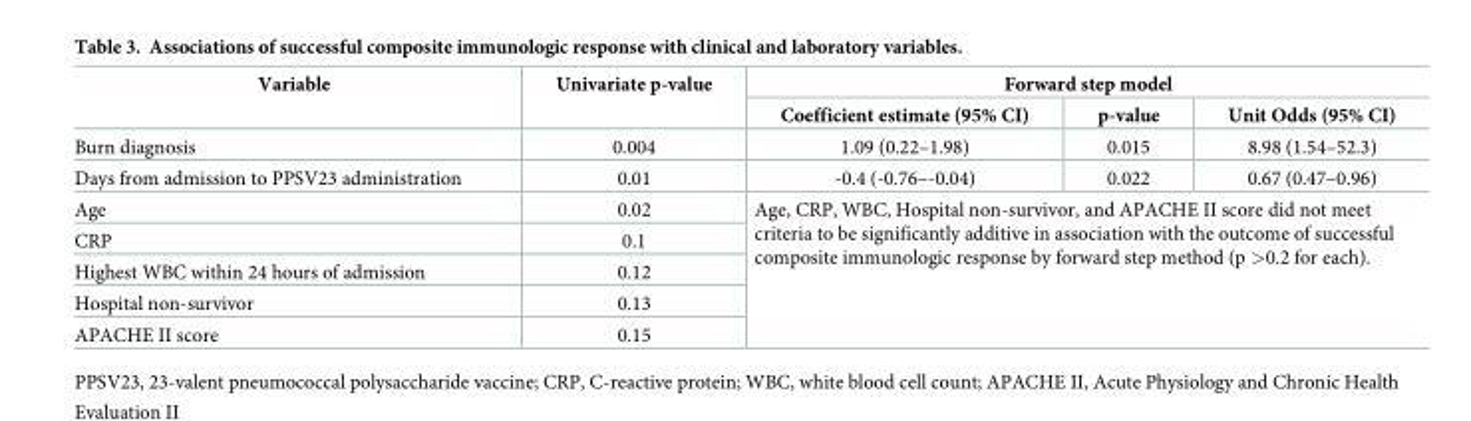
<table><thead><tr><td rowspan="2">Variable</td><td rowspan="2">Univariate p-value</td><td colspan="3">Forward step model</td></tr><tr><td>Coefficient estimate (95% CI)</td><td>p-value</td><td>Unit Odds (95% CI)</td></tr></thead><tbody><tr><td>Burn diagnosis</td><td>0.004</td><td>1.09 (0.22–1.98)</td><td>0.015</td><td>8.98 (1.54–52.3)</td></tr><tr><td>Days from admission to PPSV23 administration</td><td>0.01</td><td>-0.4 (-0.76–-0.04)</td><td>0.022</td><td>0.67 (0.47–0.96)</td></tr><tr><td>Age</td><td>0.02</td><td rowspan="5" colspan="3">Age, CRP, WBC, Hospital non-survivor, and APACHE II score did not meet criteria to be significantly additive in association with the outcome of successful composite immunologic response by forward step method (p &gt;0.2 for each).</td></tr><tr><td>CRP</td><td>0.1</td></tr><tr><td>Highest WBC within 24 hours of admission</td><td>0.12</td></tr><tr><td>Hospital non-survivor</td><td>0.13</td></tr><tr><td>APACHE II score</td><td>0.15</td></tr></tbody></table>